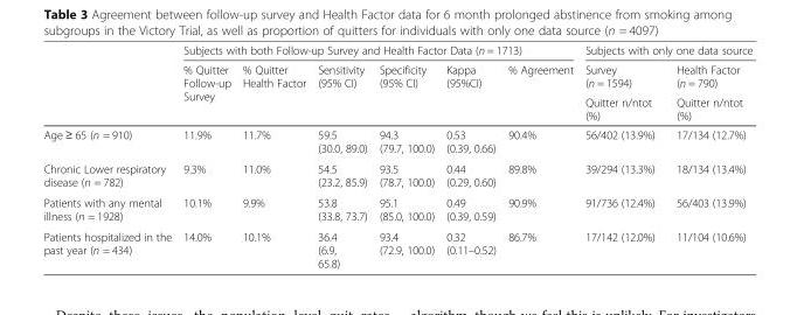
<table><thead><tr><td rowspan="3"></td><td colspan="6">Subjects with both Follow-up Survey and Health Factor Data (n = 1713)</td><td colspan="2">Subjects with only one data source</td></tr><tr><td rowspan="2">% Quitter Follow-up Survey</td><td rowspan="2">% Quitter Health Factor</td><td rowspan="2">Sensitivity (95% CI)</td><td rowspan="2">Specificity (95% CI)</td><td rowspan="2">Kappa (95%CI)</td><td rowspan="2">% Agreement</td><td rowspan="2">Survey (n = 1594) Quitter n/ntot (%)</td><td rowspan="2">Health Factor (n = 790) Quitter n/ntot (%)</td></tr><tr></tr></thead><tbody><tr><td>Age ≥ 65 (n = 910)</td><td>11.9%</td><td>11.7%</td><td>59.5 (30.0, 89.0)</td><td>94.3 (79.7, 100.0)</td><td>0.53 (0.39, 0.66)</td><td>90.4%</td><td>56/402 (13.9%)</td><td>17/134 (12.7%)</td></tr><tr><td>Chronic Lower respiratory disease (n = 782)</td><td>9.3%</td><td>11.0%</td><td>54.5 (23.2, 85.9)</td><td>93.5 (78.7, 100.0)</td><td>0.44 (0.29, 0.60)</td><td>89.8%</td><td>39/294 (13.3%)</td><td>18/134 (13.4%)</td></tr><tr><td>Patients with any mental illness (n = 1928)</td><td>10.1%</td><td>9.9%</td><td>53.8 (33.8, 73.7)</td><td>95.1 (85.0, 100.0)</td><td>0.49 (0.39, 0.59)</td><td>90.9%</td><td>91/736 (12.4%)</td><td>56/403 (13.9%)</td></tr><tr><td>Patients hospitalized in the past year (n = 434)</td><td>14.0%</td><td>10.1%</td><td>36.4 (6.9, 65.8)</td><td>93.4 (72.9, 100.0)</td><td>0.32 (0.11–0.52)</td><td>86.7%</td><td>17/142 (12.0%)</td><td>11/104 (10.6%)</td></tr></tbody></table>